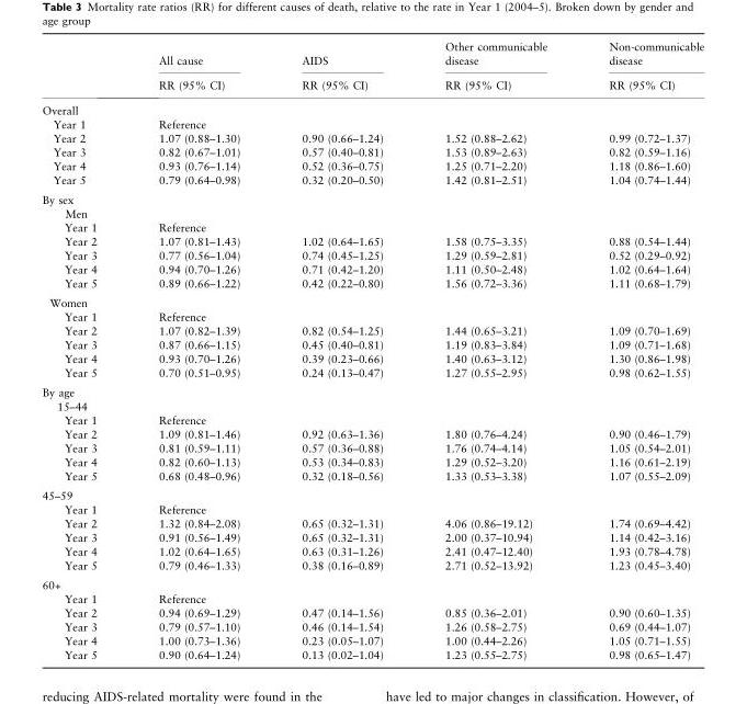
<table><thead><tr><td rowspan="2"></td><td rowspan="2">All cause RR (95% CI)</td><td rowspan="2">AIDS RR (95% CI)</td><td rowspan="2">Other communicable disease RR (95% CI)</td><td rowspan="2">Non-communicable disease RR (95% CI)</td></tr><tr></tr></thead><tbody><tr><td colspan="5">Overall</td></tr><tr><td>Year 1</td><td>Reference</td><td></td><td></td><td></td></tr><tr><td>Year 2</td><td>1.07 (0.88–1.30)</td><td>0.90 (0.66–1.24)</td><td>1.52 (0.88–2.62)</td><td>0.99 (0.72–1.37)</td></tr><tr><td>Year 3</td><td>0.82 (0.67–1.01)</td><td>0.57 (0.40–0.81)</td><td>1.53 (0.89–2.63)</td><td>0.82 (0.59–1.16)</td></tr><tr><td>Year 4</td><td>0.93 (0.76–1.14)</td><td>0.52 (0.36–0.75)</td><td>1.25 (0.71–2.20)</td><td>1.18 (0.86–1.60)</td></tr><tr><td>Year 5</td><td>0.79 (0.64–0.98)</td><td>0.32 (0.20–0.50)</td><td>1.42 (0.81–2.51)</td><td>1.04 (0.74–1.44)</td></tr><tr><td colspan="5">By sex</td></tr><tr><td colspan="5">Men</td></tr><tr><td>Year 1</td><td>Reference</td><td></td><td></td><td></td></tr><tr><td>Year 2</td><td>1.07 (0.81–1.43)</td><td>1.02 (0.64–1.65)</td><td>1.58 (0.75–3.35)</td><td>0.88 (0.54–1.44)</td></tr><tr><td>Year 3</td><td>0.77 (0.56–1.04)</td><td>0.74 (0.45–1.25)</td><td>1.29 (0.59–2.81)</td><td>0.52 (0.29–0.92)</td></tr><tr><td>Year 4</td><td>0.94 (0.70–1.26)</td><td>0.71 (0.42–1.20)</td><td>1.11 (0.50–2.48)</td><td>1.02 (0.64–1.64)</td></tr><tr><td>Year 5</td><td>0.89 (0.66–1.22)</td><td>0.42 (0.22–0.80)</td><td>1.56 (0.72–3.36)</td><td>1.11 (0.68–1.79)</td></tr><tr><td colspan="5">Women</td></tr><tr><td>Year 1</td><td>Reference</td><td></td><td></td><td></td></tr><tr><td>Year 2</td><td>1.07 (0.82–1.39)</td><td>0.82 (0.54–1.25)</td><td>1.44 (0.65–3.21)</td><td>1.09 (0.70–1.69)</td></tr><tr><td>Year 3</td><td>0.87 (0.66–1.15)</td><td>0.45 (0.40–0.81)</td><td>1.19 (0.83–3.84)</td><td>1.09 (0.71–1.68)</td></tr><tr><td>Year 4</td><td>0.93 (0.70–1.26)</td><td>0.39 (0.23–0.66)</td><td>1.40 (0.63–3.12)</td><td>1.30 (0.86–1.98)</td></tr><tr><td>Year 5</td><td>0.70 (0.51–0.95)</td><td>0.24 (0.13–0.47)</td><td>1.27 (0.55–2.95)</td><td>0.98 (0.62–1.55)</td></tr><tr><td colspan="5">By age</td></tr><tr><td colspan="5">15–44</td></tr><tr><td>Year 1</td><td>Reference</td><td></td><td></td><td></td></tr><tr><td>Year 2</td><td>1.09 (0.81–1.46)</td><td>0.92 (0.63–1.36)</td><td>1.80 (0.76–4.24)</td><td>0.90 (0.46–1.79)</td></tr><tr><td>Year 3</td><td>0.81 (0.59–1.11)</td><td>0.57 (0.36–0.88)</td><td>1.76 (0.74–4.14)</td><td>1.05 (0.54–2.01)</td></tr><tr><td>Year 4</td><td>0.82 (0.60–1.13)</td><td>0.53 (0.34–0.83)</td><td>1.29 (0.52–3.20)</td><td>1.16 (0.61–2.19)</td></tr><tr><td>Year 5</td><td>0.68 (0.48–0.96)</td><td>0.32 (0.18–0.56)</td><td>1.33 (0.53–3.38)</td><td>1.07 (0.55–2.09)</td></tr><tr><td colspan="5">45–59</td></tr><tr><td>Year 1</td><td>Reference</td><td></td><td></td><td></td></tr><tr><td>Year 2</td><td>1.32 (0.84–2.08)</td><td>0.65 (0.32–1.31)</td><td>4.06 (0.86–19.12)</td><td>1.74 (0.69–4.42)</td></tr><tr><td>Year 3</td><td>0.91 (0.56–1.49)</td><td>0.65 (0.32–1.31)</td><td>2.00 (0.37–10.94)</td><td>1.14 (0.42–3.16)</td></tr><tr><td>Year 4</td><td>1.02 (0.64–1.65)</td><td>0.63 (0.31–1.26)</td><td>2.41 (0.47–12.40)</td><td>1.93 (0.78–4.78)</td></tr><tr><td>Year 5</td><td>0.79 (0.46–1.33)</td><td>0.38 (0.16–0.89)</td><td>2.71 (0.52–13.92)</td><td>1.23 (0.45–3.40)</td></tr><tr><td colspan="5">60+</td></tr><tr><td>Year 1</td><td>Reference</td><td></td><td></td><td></td></tr><tr><td>Year 2</td><td>0.94 (0.69–1.29)</td><td>0.47 (0.14–1.56)</td><td>0.85 (0.36–2.01)</td><td>0.90 (0.60–1.35)</td></tr><tr><td>Year 3</td><td>0.79 (0.57–1.10)</td><td>0.46 (0.14–1.54)</td><td>1.26 (0.58–2.75)</td><td>0.69 (0.44–1.07)</td></tr><tr><td>Year 4</td><td>1.00 (0.73–1.36)</td><td>0.23 (0.05–1.07)</td><td>1.00 (0.44–2.26)</td><td>1.05 (0.71–1.55)</td></tr><tr><td>Year 5</td><td>0.90 (0.64–1.24)</td><td>0.13 (0.02–1.04)</td><td>1.23 (0.55–2.75)</td><td>0.98 (0.65–1.47)</td></tr></tbody></table>